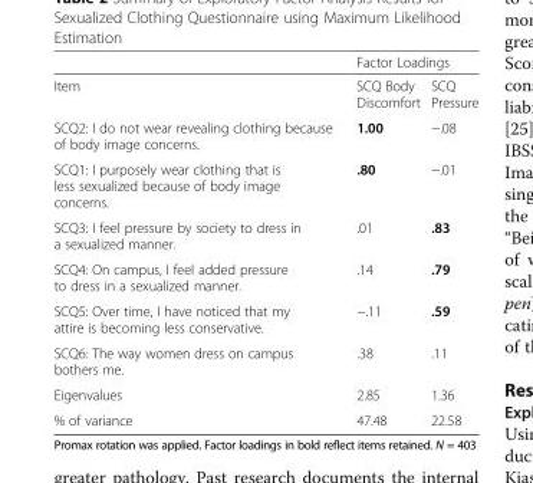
<table><thead><tr><td rowspan="2">Item</td><td colspan="2">Factor Loadings</td></tr><tr><td>SCQ Body Discomfort</td><td>SCQ Pressure</td></tr></thead><tbody><tr><td>SCQ2: I do not wear revealing clothing because of body image concerns.</td><td>1.00</td><td>−.08</td></tr><tr><td>SCQ1: I purposely wear clothing that is less sexualized because of body image concerns.</td><td>.80</td><td>−.01</td></tr><tr><td>SCQ3: I feel pressure by society to dress in a sexualized manner.</td><td>.01</td><td>.83</td></tr><tr><td>SCQ4: On campus, I feel added pressure to dress in a sexualized manner.</td><td>.14</td><td>.79</td></tr><tr><td>SCQ5: Over time, I have noticed that my attire is becoming less conservative.</td><td>−.11</td><td>.59</td></tr><tr><td>SCQ6: The way women dress on campus bothers me.</td><td>.38</td><td>.11</td></tr><tr><td>Eigenvalues</td><td>2.85</td><td>1.36</td></tr><tr><td>% of variance</td><td>47.48</td><td>22.58</td></tr></tbody></table>